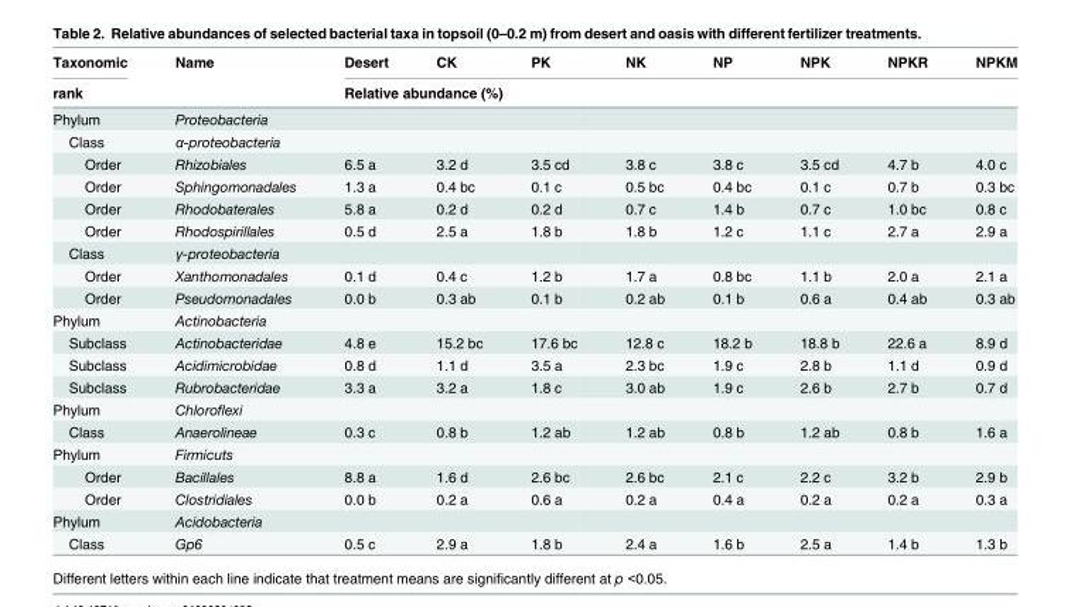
<table><thead><tr><td rowspan="2">Taxonomic rank</td><td rowspan="2">Name</td><td>Desert</td><td>CK</td><td>PK</td><td>NK</td><td>NP</td><td>NPK</td><td>NPKR</td><td>NPKM</td></tr><tr><td colspan="8">Relative abundance (%)</td></tr></thead><tbody><tr><td>Phylum</td><td>Proteobacteria</td><td></td><td></td><td></td><td></td><td></td><td></td><td></td><td></td></tr><tr><td>Class</td><td>α-proteobacteria</td><td></td><td></td><td></td><td></td><td></td><td></td><td></td><td></td></tr><tr><td>Order</td><td>Rhizobiales</td><td>6.5 a</td><td>3.2 d</td><td>3.5 cd</td><td>3.8 c</td><td>3.8 c</td><td>3.5 cd</td><td>4.7 b</td><td>4.0 c</td></tr><tr><td>Order</td><td>Sphingomonadales</td><td>1.3 a</td><td>0.4 bc</td><td>0.1 c</td><td>0.5 bc</td><td>0.4 bc</td><td>0.1 c</td><td>0.7 b</td><td>0.3 bc</td></tr><tr><td>Order</td><td>Rhodobaterales</td><td>5.8 a</td><td>0.2 d</td><td>0.2 d</td><td>0.7 c</td><td>1.4 b</td><td>0.7 c</td><td>1.0 bc</td><td>0.8 c</td></tr><tr><td>Order</td><td>Rhodospirillales</td><td>0.5 d</td><td>2.5 a</td><td>1.8 b</td><td>1.8 b</td><td>1.2 c</td><td>1.1 c</td><td>2.7 a</td><td>2.9 a</td></tr><tr><td>Class</td><td>γ-proteobacteria</td><td></td><td></td><td></td><td></td><td></td><td></td><td></td><td></td></tr><tr><td>Order</td><td>Xanthomonadales</td><td>0.1 d</td><td>0.4 c</td><td>1.2 b</td><td>1.7 a</td><td>0.8 bc</td><td>1.1 b</td><td>2.0 a</td><td>2.1 a</td></tr><tr><td>Order</td><td>Pseudomonadales</td><td>0.0 b</td><td>0.3 ab</td><td>0.1 b</td><td>0.2 ab</td><td>0.1 b</td><td>0.6 a</td><td>0.4 ab</td><td>0.3 ab</td></tr><tr><td>Phylum</td><td>Actinobacteria</td><td></td><td></td><td></td><td></td><td></td><td></td><td></td><td></td></tr><tr><td>Subclass</td><td>Actinobacteridae</td><td>4.8 e</td><td>15.2 bc</td><td>17.6 bc</td><td>12.8 c</td><td>18.2 b</td><td>18.8 b</td><td>22.6 a</td><td>8.9 d</td></tr><tr><td>Subclass</td><td>Acidimicrobidae</td><td>0.8 d</td><td>1.1 d</td><td>3.5 a</td><td>2.3 bc</td><td>1.9 c</td><td>2.8 b</td><td>1.1 d</td><td>0.9 d</td></tr><tr><td>Subclass</td><td>Rubrobacteridae</td><td>3.3 a</td><td>3.2 a</td><td>1.8 c</td><td>3.0 ab</td><td>1.9 c</td><td>2.6 b</td><td>2.7 b</td><td>0.7 d</td></tr><tr><td>Phylum</td><td>Chloroflexi</td><td></td><td></td><td></td><td></td><td></td><td></td><td></td><td></td></tr><tr><td>Class</td><td>Anaerolineae</td><td>0.3 c</td><td>0.8 b</td><td>1.2 ab</td><td>1.2 ab</td><td>0.8 b</td><td>1.2 ab</td><td>0.8 b</td><td>1.6 a</td></tr><tr><td>Phylum</td><td>Firmicuts</td><td></td><td></td><td></td><td></td><td></td><td></td><td></td><td></td></tr><tr><td>Order</td><td>Bacillales</td><td>8.8 a</td><td>1.6 d</td><td>2.6 bc</td><td>2.6 bc</td><td>2.1 c</td><td>2.2 c</td><td>3.2 b</td><td>2.9 b</td></tr><tr><td>Order</td><td>Clostridiales</td><td>0.0 b</td><td>0.2 a</td><td>0.6 a</td><td>0.2 a</td><td>0.4 a</td><td>0.2 a</td><td>0.2 a</td><td>0.3 a</td></tr><tr><td>Phylum</td><td>Acidobacteria</td><td></td><td></td><td></td><td></td><td></td><td></td><td></td><td></td></tr><tr><td>Class</td><td>Gp6</td><td>0.5 c</td><td>2.9 a</td><td>1.8 b</td><td>2.4 a</td><td>1.6 b</td><td>2.5 a</td><td>1.4 b</td><td>1.3 b</td></tr></tbody></table>